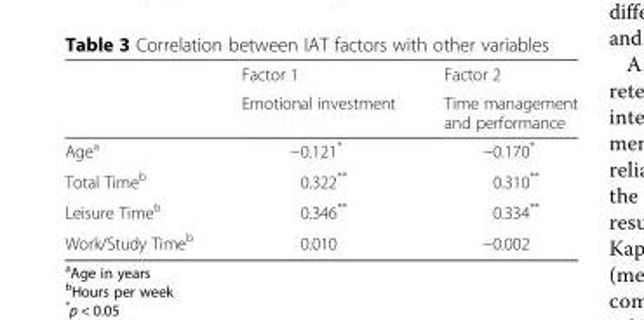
<table><thead><tr><td rowspan="2"></td><td rowspan="2">Factor 1 Emotional investment</td><td rowspan="2">Factor 2 Time management and performance</td></tr><tr></tr></thead><tbody><tr><td>Age<sup>a</sup></td><td>−0.121*</td><td>−0.170*</td></tr><tr><td>Total Time<sup>b</sup></td><td>0.322**</td><td>0.310**</td></tr><tr><td>Leisure Time<sup>b</sup></td><td>0.346**</td><td>0.334**</td></tr><tr><td>Work/Study Time<sup>b</sup></td><td>0.010</td><td>−0.002</td></tr></tbody></table>